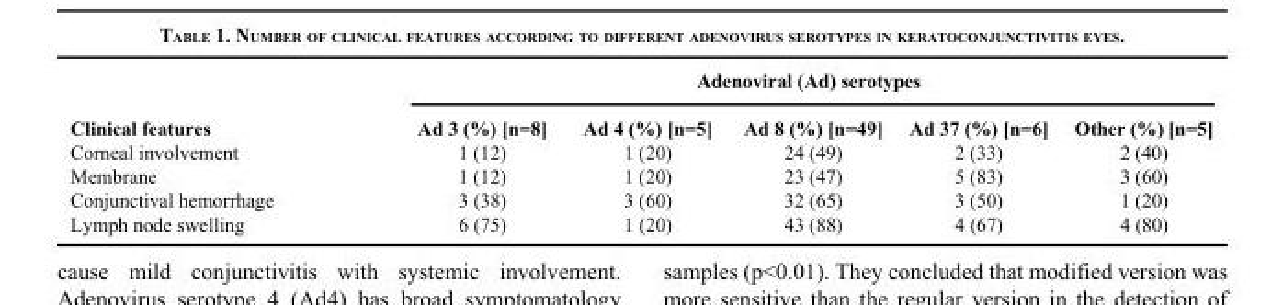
<table><thead><tr><td rowspan="2">Clinical features</td><td colspan="5">Adenoviral (Ad) serotypes</td></tr><tr><td>Ad 3 (%) [n=8]</td><td>Ad 4 (%) [n=5]</td><td>Ad 8 (%) [n=49]</td><td>Ad 37 (%) [n=6]</td><td>Other (%) [n=5]</td></tr></thead><tbody><tr><td>Corneal involvement</td><td>1 (12)</td><td>1 (20)</td><td>24 (49)</td><td>2 (33)</td><td>2 (40)</td></tr><tr><td>Membrane</td><td>1 (12)</td><td>1 (20)</td><td>23 (47)</td><td>5 (83)</td><td>3 (60)</td></tr><tr><td>Conjunctival hemorrhage</td><td>3 (38)</td><td>3 (60)</td><td>32 (65)</td><td>3 (50)</td><td>1 (20)</td></tr><tr><td>Lymph node swelling</td><td>6 (75)</td><td>1 (20)</td><td>43 (88)</td><td>4 (67)</td><td>4 (80)</td></tr></tbody></table>